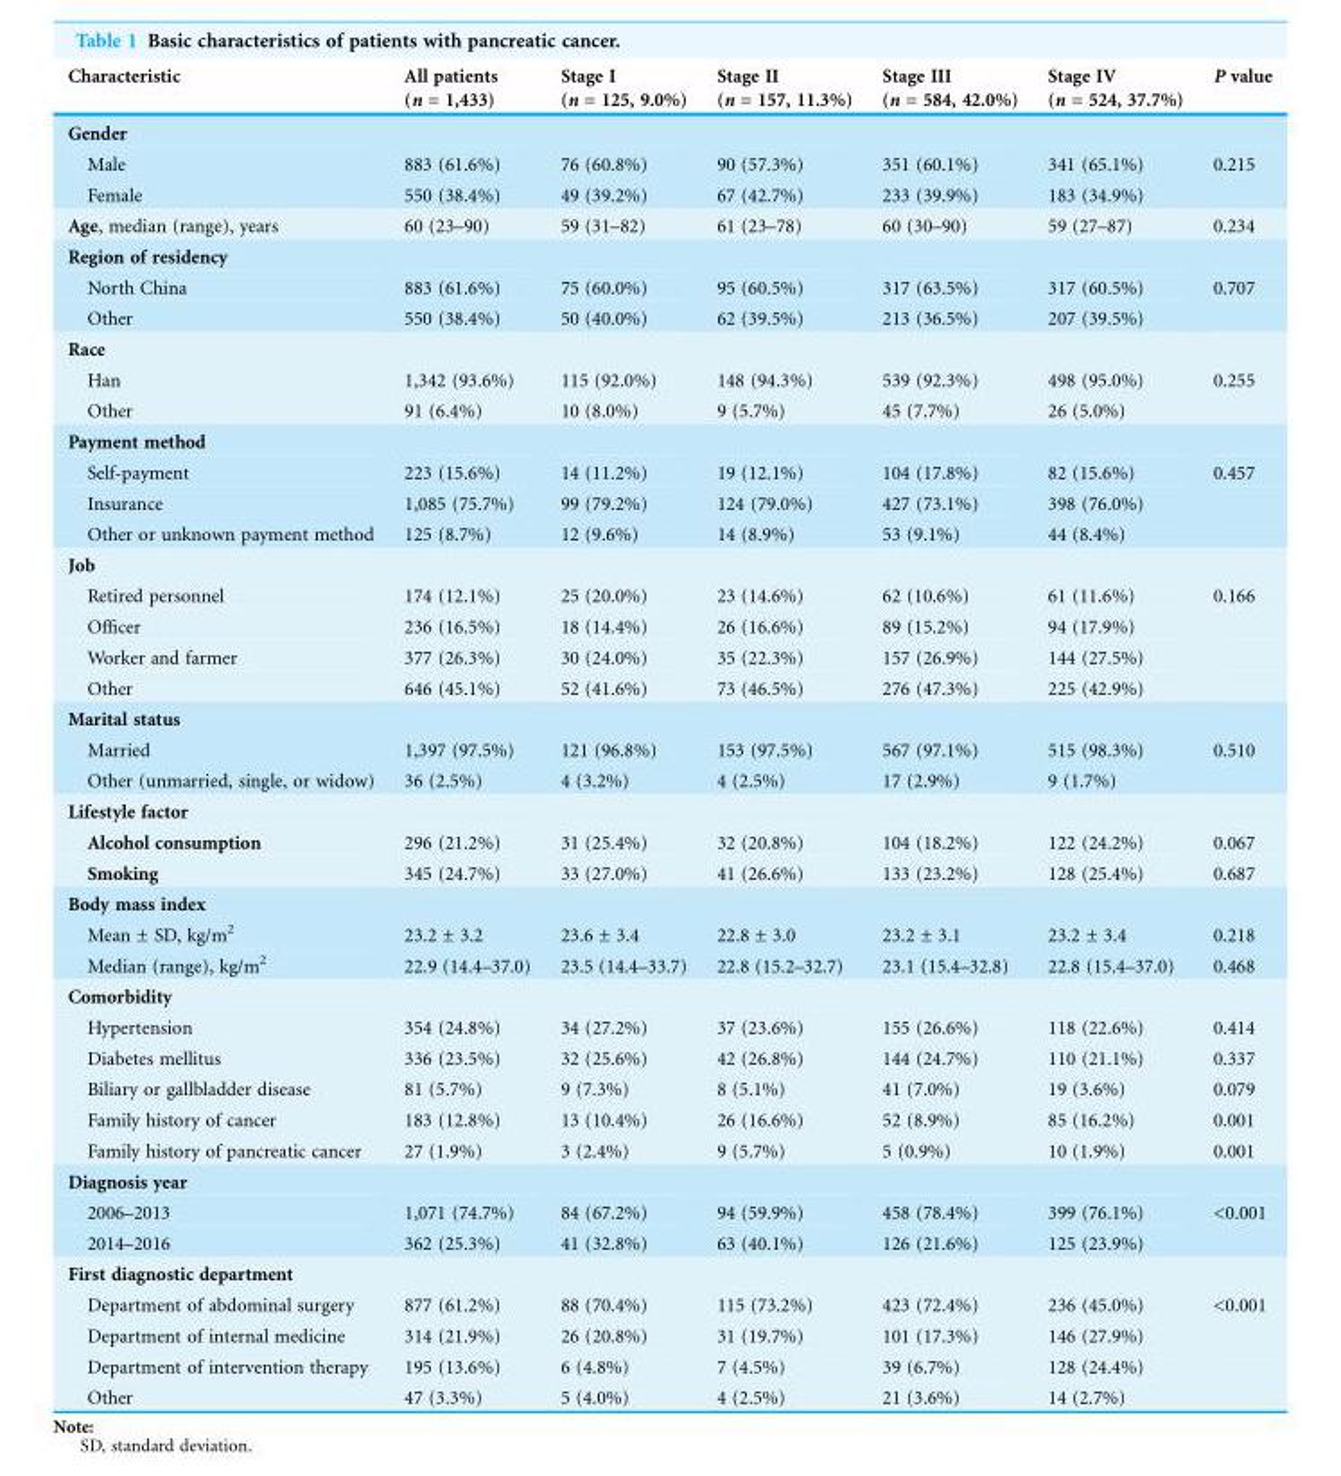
<table><thead><tr><td>Characteristic</td><td>All patients (n = 1,433)</td><td>Stage I (n = 125, 9.0%)</td><td>Stage II (n = 157, 11.3%)</td><td>Stage III (n = 584, 42.0%)</td><td>Stage IV (n = 524, 37.7%)</td><td>P value</td></tr></thead><tbody><tr><td colspan="7">Gender</td></tr><tr><td>Male</td><td>883 (61.6%)</td><td>76 (60.8%)</td><td>90 (57.3%)</td><td>351 (60.1%)</td><td>341 (65.1%)</td><td>0.215</td></tr><tr><td>Female</td><td>550 (38.4%)</td><td>49 (39.2%)</td><td>67 (42.7%)</td><td>233 (39.9%)</td><td>183 (34.9%)</td><td></td></tr><tr><td>Age, median (range), years</td><td>60 (23–90)</td><td>59 (31–82)</td><td>61 (23–78)</td><td>60 (30–90)</td><td>59 (27–87)</td><td>0.234</td></tr><tr><td colspan="7">Region of residency</td></tr><tr><td>North China</td><td>883 (61.6%)</td><td>75 (60.0%)</td><td>95 (60.5%)</td><td>317 (63.5%)</td><td>317 (60.5%)</td><td>0.707</td></tr><tr><td>Other</td><td>550 (38.4%)</td><td>50 (40.0%)</td><td>62 (39.5%)</td><td>213 (36.5%)</td><td>207 (39.5%)</td><td></td></tr><tr><td colspan="7">Race</td></tr><tr><td>Han</td><td>1,342 (93.6%)</td><td>115 (92.0%)</td><td>148 (94.3%)</td><td>539 (92.3%)</td><td>498 (95.0%)</td><td>0.255</td></tr><tr><td>Other</td><td>91 (6.4%)</td><td>10 (8.0%)</td><td>9 (5.7%)</td><td>45 (7.7%)</td><td>26 (5.0%)</td><td></td></tr><tr><td colspan="7">Payment method</td></tr><tr><td>Self-payment</td><td>223 (15.6%)</td><td>14 (11.2%)</td><td>19 (12.1%)</td><td>104 (17.8%)</td><td>82 (15.6%)</td><td>0.457</td></tr><tr><td>Insurance</td><td>1,085 (75.7%)</td><td>99 (79.2%)</td><td>124 (79.0%)</td><td>427 (73.1%)</td><td>398 (76.0%)</td><td></td></tr><tr><td>Other or unknown payment method</td><td>125 (8.7%)</td><td>12 (9.6%)</td><td>14 (8.9%)</td><td>53 (9.1%)</td><td>44 (8.4%)</td><td></td></tr><tr><td colspan="7">Job</td></tr><tr><td>Retired personnel</td><td>174 (12.1%)</td><td>25 (20.0%)</td><td>23 (14.6%)</td><td>62 (10.6%)</td><td>61 (11.6%)</td><td>0.166</td></tr><tr><td>Officer</td><td>236 (16.5%)</td><td>18 (14.4%)</td><td>26 (16.6%)</td><td>89 (15.2%)</td><td>94 (17.9%)</td><td></td></tr><tr><td>Worker and farmer</td><td>377 (26.3%)</td><td>30 (24.0%)</td><td>35 (22.3%)</td><td>157 (26.9%)</td><td>144 (27.5%)</td><td></td></tr><tr><td>Other</td><td>646 (45.1%)</td><td>52 (41.6%)</td><td>73 (46.5%)</td><td>276 (47.3%)</td><td>225 (42.9%)</td><td></td></tr><tr><td colspan="7">Marital status</td></tr><tr><td>Married</td><td>1,397 (97.5%)</td><td>121 (96.8%)</td><td>153 (97.5%)</td><td>567 (97.1%)</td><td>515 (98.3%)</td><td>0.510</td></tr><tr><td>Other (unmarried, single, or widow)</td><td>36 (2.5%)</td><td>4 (3.2%)</td><td>4 (2.5%)</td><td>17 (2.9%)</td><td>9 (1.7%)</td><td></td></tr><tr><td colspan="7">Lifestyle factor</td></tr><tr><td>Alcohol consumption</td><td>296 (21.2%)</td><td>31 (25.4%)</td><td>32 (20.8%)</td><td>104 (18.2%)</td><td>122 (24.2%)</td><td>0.067</td></tr><tr><td>Smoking</td><td>345 (24.7%)</td><td>33 (27.0%)</td><td>41 (26.6%)</td><td>133 (23.2%)</td><td>128 (25.4%)</td><td>0.687</td></tr><tr><td colspan="7">Body mass index</td></tr><tr><td>Mean ± SD, kg/m<sup>2</sup></td><td>23.2 ± 3.2</td><td>23.6 ± 3.4</td><td>22.8 ± 3.0</td><td>23.2 ± 3.1</td><td>23.2 ± 3.4</td><td>0.218</td></tr><tr><td>Median (range), kg/m<sup>2</sup></td><td>22.9 (14.4–37.0)</td><td>23.5 (14.4–33.7)</td><td>22.8 (15.2–32.7)</td><td>23.1 (15.4–32.8)</td><td>22.8 (15.4–37.0)</td><td>0.468</td></tr><tr><td colspan="7">Comorbidity</td></tr><tr><td>Hypertension</td><td>354 (24.8%)</td><td>34 (27.2%)</td><td>37 (23.6%)</td><td>155 (26.6%)</td><td>118 (22.6%)</td><td>0.414</td></tr><tr><td>Diabetes mellitus</td><td>336 (23.5%)</td><td>32 (25.6%)</td><td>42 (26.8%)</td><td>144 (24.7%)</td><td>110 (21.1%)</td><td>0.337</td></tr><tr><td>Biliary or gallbladder disease</td><td>81 (5.7%)</td><td>9 (7.3%)</td><td>8 (5.1%)</td><td>41 (7.0%)</td><td>19 (3.6%)</td><td>0.079</td></tr><tr><td>Family history of cancer</td><td>183 (12.8%)</td><td>13 (10.4%)</td><td>26 (16.6%)</td><td>52 (8.9%)</td><td>85 (16.2%)</td><td>0.001</td></tr><tr><td>Family history of pancreatic cancer</td><td>27 (1.9%)</td><td>3 (2.4%)</td><td>9 (5.7%)</td><td>5 (0.9%)</td><td>10 (1.9%)</td><td>0.001</td></tr><tr><td colspan="7">Diagnosis year</td></tr><tr><td>2006–2013</td><td>1,071 (74.7%)</td><td>84 (67.2%)</td><td>94 (59.9%)</td><td>458 (78.4%)</td><td>399 (76.1%)</td><td>&lt;0.001</td></tr><tr><td>2014–2016</td><td>362 (25.3%)</td><td>41 (32.8%)</td><td>63 (40.1%)</td><td>126 (21.6%)</td><td>125 (23.9%)</td><td></td></tr><tr><td colspan="7">First diagnostic department</td></tr><tr><td>Department of abdominal surgery</td><td>877 (61.2%)</td><td>88 (70.4%)</td><td>115 (73.2%)</td><td>423 (72.4%)</td><td>236 (45.0%)</td><td>&lt;0.001</td></tr><tr><td>Department of internal medicine</td><td>314 (21.9%)</td><td>26 (20.8%)</td><td>31 (19.7%)</td><td>101 (17.3%)</td><td>146 (27.9%)</td><td></td></tr><tr><td>Department of intervention therapy</td><td>195 (13.6%)</td><td>6 (4.8%)</td><td>7 (4.5%)</td><td>39 (6.7%)</td><td>128 (24.4%)</td><td></td></tr><tr><td>Other</td><td>47 (3.3%)</td><td>5 (4.0%)</td><td>4 (2.5%)</td><td>21 (3.6%)</td><td>14 (2.7%)</td><td></td></tr></tbody></table>